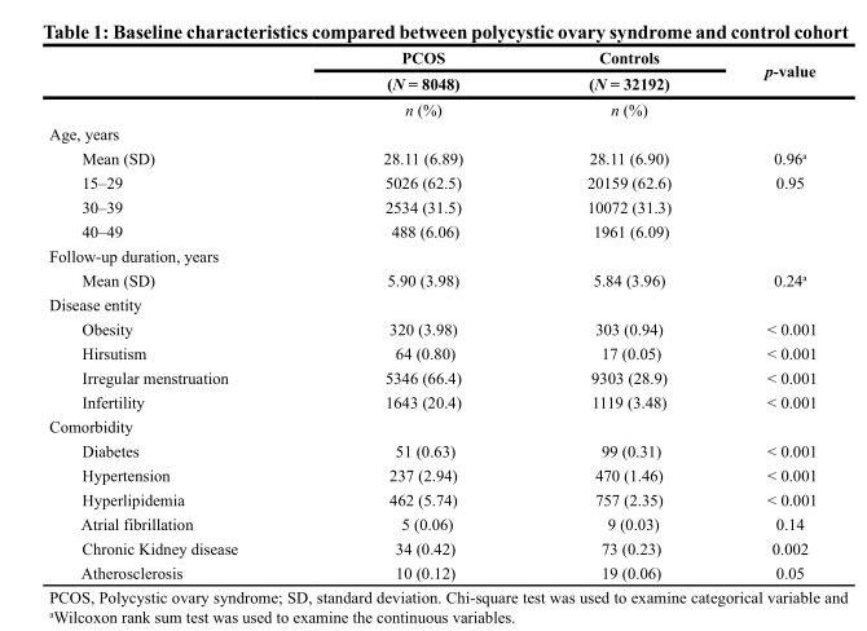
<table><thead><tr><td rowspan="2"></td><td rowspan="2">PCOS (N = 8048)</td><td rowspan="2">Controls (N = 32192)</td><td rowspan="2">p-value</td></tr><tr></tr></thead><tbody><tr><td></td><td>n (%)</td><td>n (%)</td><td></td></tr><tr><td colspan="4">Age, years</td></tr><tr><td>Mean (SD)</td><td>28.11 (6.89)</td><td>28.11 (6.90)</td><td>0.96<sup>a</sup></td></tr><tr><td>15–29</td><td>5026 (62.5)</td><td>20159 (62.6)</td><td>0.95</td></tr><tr><td>30–39</td><td>2534 (31.5)</td><td>10072 (31.3)</td><td></td></tr><tr><td>40–49</td><td>488 (6.06)</td><td>1961 (6.09)</td><td></td></tr><tr><td colspan="4">Follow-up duration, years</td></tr><tr><td>Mean (SD)</td><td>5.90 (3.98)</td><td>5.84 (3.96)</td><td>0.24<sup>a</sup></td></tr><tr><td colspan="4">Disease entity</td></tr><tr><td>Obesity</td><td>320 (3.98)</td><td>303 (0.94)</td><td>&lt; 0.001</td></tr><tr><td>Hirsutism</td><td>64 (0.80)</td><td>17 (0.05)</td><td>&lt; 0.001</td></tr><tr><td>Irregular menstruation</td><td>5346 (66.4)</td><td>9303 (28.9)</td><td>&lt; 0.001</td></tr><tr><td>Infertility</td><td>1643 (20.4)</td><td>1119 (3.48)</td><td>&lt; 0.001</td></tr><tr><td colspan="4">Comorbidity</td></tr><tr><td>Diabetes</td><td>51 (0.63)</td><td>99 (0.31)</td><td>&lt; 0.001</td></tr><tr><td>Hypertension</td><td>237 (2.94)</td><td>470 (1.46)</td><td>&lt; 0.001</td></tr><tr><td>Hyperlipidemia</td><td>462 (5.74)</td><td>757 (2.35)</td><td>&lt; 0.001</td></tr><tr><td>Atrial fibrillation</td><td>5 (0.06)</td><td>9 (0.03)</td><td>0.14</td></tr><tr><td>Chronic Kidney disease</td><td>34 (0.42)</td><td>73 (0.23)</td><td>0.002</td></tr><tr><td>Atherosclerosis</td><td>10 (0.12)</td><td>19 (0.06)</td><td>0.05</td></tr></tbody></table>